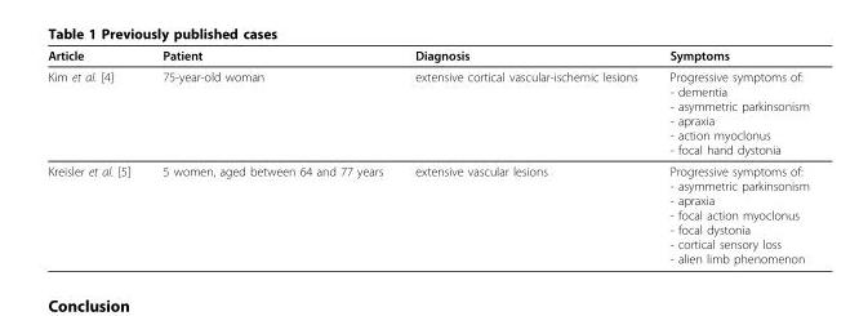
<table><thead><tr><td>Article</td><td>Patient</td><td>Diagnosis</td><td>Symptoms</td></tr></thead><tbody><tr><td>Kim et al. [4]</td><td>75-year-old woman</td><td>extensive cortical vascular-ischemic lesions</td><td>Progressive symptoms of: - dementia - asymmetric parkinsonism - apraxia - action myoclonus - focal hand dystonia</td></tr><tr><td>Kreisler et al. [5]</td><td>5 women, aged between 64 and 77 years</td><td>extensive vascular lesions</td><td>Progressive symptoms of: - asymmetric parkinsonism - apraxia - focal action myoclonus - focal dystonia - cortical sensory loss - alien limb phenomenon</td></tr></tbody></table>